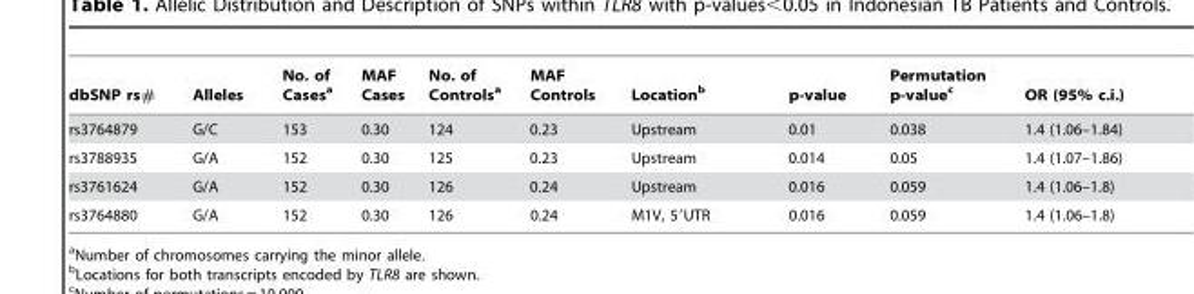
<table><thead><tr><td>dbSNP rs#</td><td>Alleles</td><td>No. of Cases<sup>a</sup></td><td>MAF Cases</td><td>No. of Controls<sup>a</sup></td><td>MAF Controls</td><td>Location<sup>b</sup></td><td>p-value</td><td>Permutation p-value<sup>c</sup></td><td>OR (95% c.i.)</td></tr></thead><tbody><tr><td>rs3764879</td><td>G/C</td><td>153</td><td>0.30</td><td>124</td><td>0.23</td><td>Upstream</td><td>0.01</td><td>0.038</td><td>1.4 (1.06–1.84)</td></tr><tr><td>rs3788935</td><td>G/A</td><td>152</td><td>0.30</td><td>125</td><td>0.23</td><td>Upstream</td><td>0.014</td><td>0.05</td><td>1.4 (1.07–1.86)</td></tr><tr><td>rs3761624</td><td>G/A</td><td>152</td><td>0.30</td><td>126</td><td>0.24</td><td>Upstream</td><td>0.016</td><td>0.059</td><td>1.4 (1.06–1.8)</td></tr><tr><td>rs3764880</td><td>G/A</td><td>152</td><td>0.30</td><td>126</td><td>0.24</td><td>M1V, 5′UTR</td><td>0.016</td><td>0.059</td><td>1.4 (1.06–1.8)</td></tr></tbody></table>